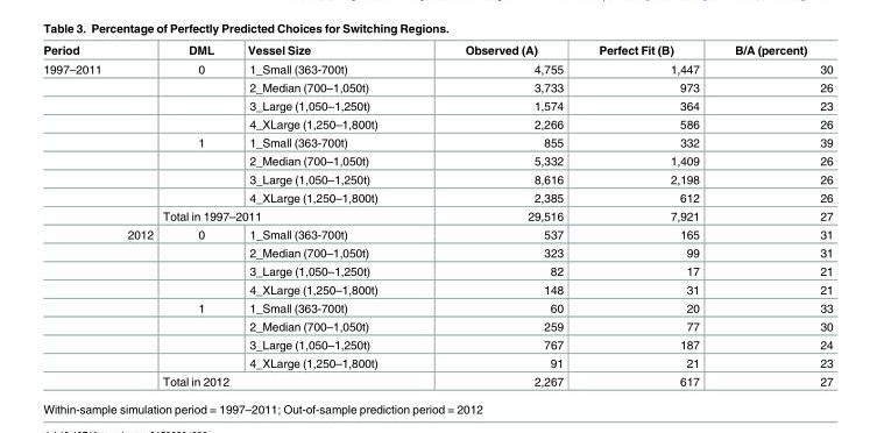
<table><thead><tr><td>Period</td><td>DML</td><td>Vessel Size</td><td>Observed (A)</td><td>Perfect Fit (B)</td><td>B/A (percent)</td></tr></thead><tbody><tr><td rowspan="9">1997–2011</td><td>0</td><td>1_Small (363-700t)</td><td>4,755</td><td>1,447</td><td>30</td></tr><tr><td></td><td>2_Median (700–1,050t)</td><td>3,733</td><td>973</td><td>26</td></tr><tr><td></td><td>3_Large (1,050–1,250t)</td><td>1,574</td><td>364</td><td>23</td></tr><tr><td></td><td>4_XLarge (1,250–1,800t)</td><td>2,266</td><td>586</td><td>26</td></tr><tr><td>1</td><td>1_Small (363-700t)</td><td>855</td><td>332</td><td>39</td></tr><tr><td></td><td>2_Median (700–1,050t)</td><td>5,332</td><td>1,409</td><td>26</td></tr><tr><td></td><td>3_Large (1,050–1,250t)</td><td>8,616</td><td>2,198</td><td>26</td></tr><tr><td></td><td>4_XLarge (1,250–1,800t)</td><td>2,385</td><td>612</td><td>26</td></tr><tr><td colspan="2">Total in 1997–2011</td><td>29,516</td><td>7,921</td><td>27</td></tr><tr><td rowspan="9">2012</td><td>0</td><td>1_Small (363-700t)</td><td>537</td><td>165</td><td>31</td></tr><tr><td></td><td>2_Median (700–1,050t)</td><td>323</td><td>99</td><td>31</td></tr><tr><td></td><td>3_Large (1,050–1,250t)</td><td>82</td><td>17</td><td>21</td></tr><tr><td></td><td>4_XLarge (1,250–1,800t)</td><td>148</td><td>31</td><td>21</td></tr><tr><td>1</td><td>1_Small (363-700t)</td><td>60</td><td>20</td><td>33</td></tr><tr><td></td><td>2_Median (700–1,050t)</td><td>259</td><td>77</td><td>30</td></tr><tr><td></td><td>3_Large (1,050–1,250t)</td><td>767</td><td>187</td><td>24</td></tr><tr><td></td><td>4_XLarge (1,250–1,800t)</td><td>91</td><td>21</td><td>23</td></tr><tr><td colspan="2">Total in 2012</td><td>2,267</td><td>617</td><td>27</td></tr></tbody></table>